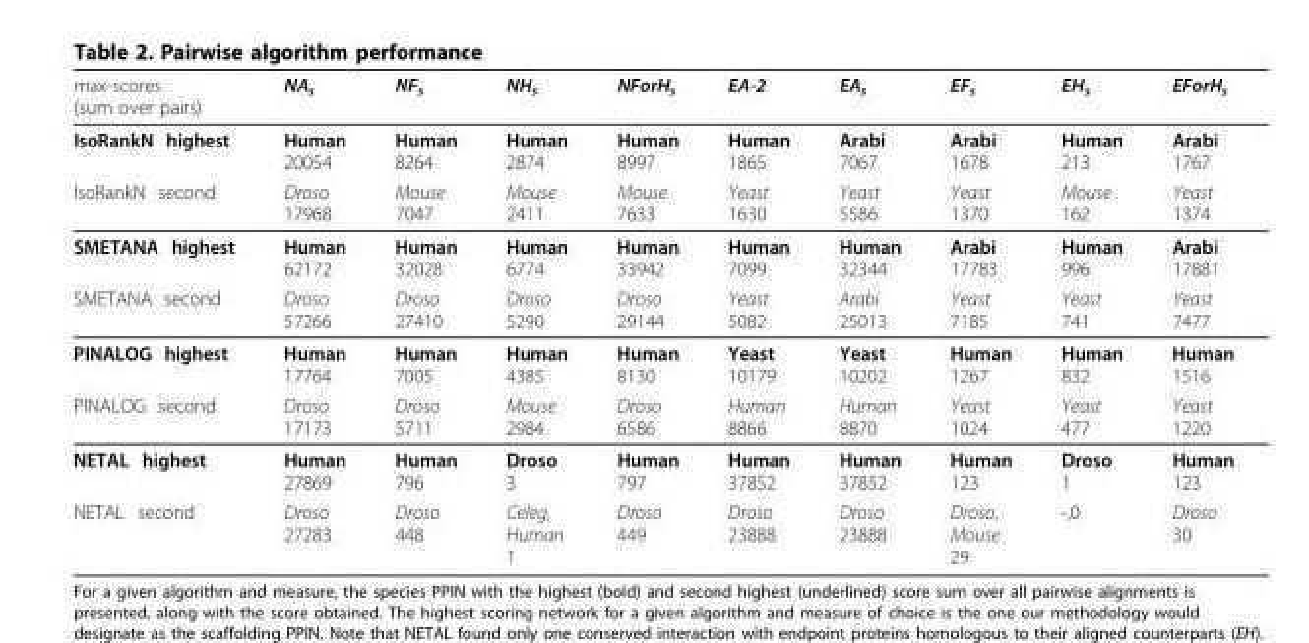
<table><thead><tr><td>max-scores (sum over pairs)</td><td>NA<sub>s</sub></td><td>NF<sub>s</sub></td><td>NH<sub>s</sub></td><td>NForH<sub>s</sub></td><td>EA-2</td><td>EA<sub>s</sub></td><td>EF<sub>s</sub></td><td>EH<sub>s</sub></td><td>EForH<sub>s</sub></td></tr></thead><tbody><tr><td>IsoRankN highest</td><td>Human 20054</td><td>Human 8264</td><td>Human 2874</td><td>Human 8997</td><td>Human 1865</td><td>Arabi 7067</td><td>Arabi 1678</td><td>Human 213</td><td>Arabi 1767</td></tr><tr><td>IsoRankN second</td><td>Droso 17968</td><td>Mouse 7047</td><td>Mouse 2411</td><td>Mouse 7633</td><td>Yeast 1630</td><td>Yeast 5586</td><td>Yeast 1370</td><td>Mouse 162</td><td>Yeast 1374</td></tr><tr><td>SMETANA highest</td><td>Human 62172</td><td>Human 32028</td><td>Human 6774</td><td>Human 33942</td><td>Human 7099</td><td>Human 32344</td><td>Arabi 17783</td><td>Human 996</td><td>Arabi 17881</td></tr><tr><td>SMETANA second</td><td>Droso 57266</td><td>Droso 27410</td><td>Droso 5290</td><td>Droso 29144</td><td>Yeast 5082</td><td>Arabi 25013</td><td>Yeast 7185</td><td>Yeast 741</td><td>Yeast 7477</td></tr><tr><td>PINALOG highest</td><td>Human 17764</td><td>Human 7005</td><td>Human 4385</td><td>Human 8130</td><td>Yeast 10179</td><td>Yeast 10202</td><td>Human 1267</td><td>Human 832</td><td>Human 1516</td></tr><tr><td>PINALOG second</td><td>Droso 17173</td><td>Droso 5711</td><td>Mouse 2984</td><td>Droso 6586</td><td>Human 8866</td><td>Human 8870</td><td>Yeast 1024</td><td>Yeast 477</td><td>Yeast 1220</td></tr><tr><td>NETAL highest</td><td>Human 27869</td><td>Human 796</td><td>Droso 3</td><td>Human 797</td><td>Human 37852</td><td>Human 37852</td><td>Human 123</td><td>Droso 1</td><td>Human 123</td></tr><tr><td>NETAL second</td><td>Droso 27283</td><td>Droso 448</td><td>Celeg, Human 1</td><td>Droso 449</td><td>Droso 23888</td><td>Droso 23888</td><td>Droso, Mouse 29</td><td>-,0</td><td>Droso 30</td></tr></tbody></table>